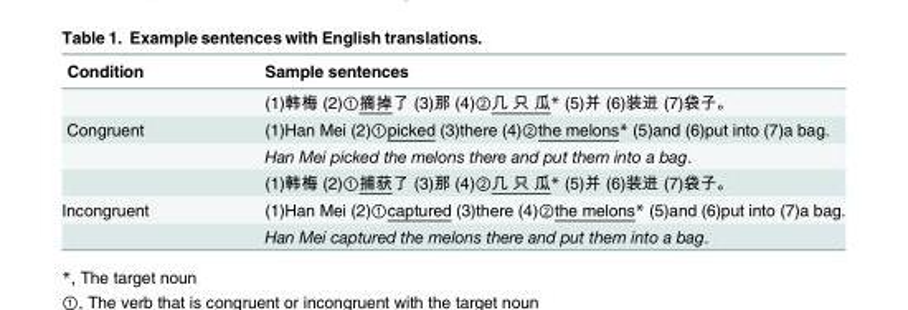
<table><thead><tr><td>Condition</td><td>Sample sentences</td></tr></thead><tbody><tr><td></td><td>(1)韩梅 (2)①摘掉了 (3)那 (4)②几 只 瓜* (5)并 (6)装进 (7)袋子。</td></tr><tr><td rowspan="3">Congruent</td><td>(1)Han Mei (2)①picked (3)there (4)②the melons* (5)and (6)put into (7)a bag.</td></tr><tr><td>Han Mei picked the melons there and put them into a bag.</td></tr><tr><td>(1)韩梅 (2)①捕获了 (3)那 (4)②几 只 瓜* (5)并 (6)装进 (7)袋子。</td></tr><tr><td rowspan="2">Incongruent</td><td>(1)Han Mei (2)①captured (3)there (4)②the melons* (5)and (6)put into (7)a bag.</td></tr><tr><td>Han Mei captured the melons there and put them into a bag.</td></tr></tbody></table>